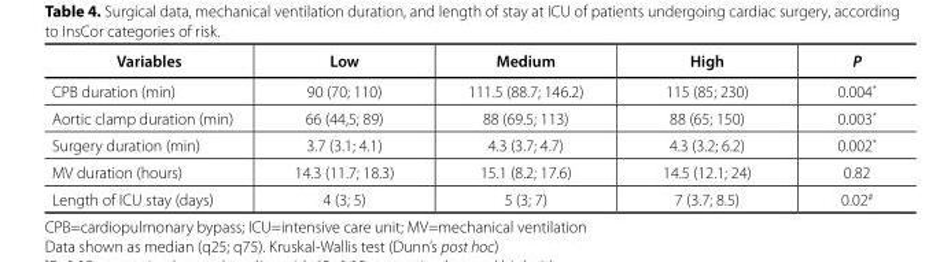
<table><thead><tr><td>Variables</td><td>Low</td><td>Medium</td><td>High</td><td>P</td></tr></thead><tbody><tr><td>CPB duration (min)</td><td>90 (70; 110)</td><td>111.5 (88.7; 146.2)</td><td>115 (85; 230)</td><td>0.004*</td></tr><tr><td>Aortic clamp duration (min)</td><td>66 (44,5; 89)</td><td>88 (69.5; 113)</td><td>88 (65; 150)</td><td>0.003*</td></tr><tr><td>Surgery duration (min)</td><td>3.7 (3.1; 4.1)</td><td>4.3 (3.7; 4.7)</td><td>4.3 (3.2; 6.2)</td><td>0.002*</td></tr><tr><td>MV duration (hours)</td><td>14.3 (11.7; 18.3)</td><td>15.1 (8.2; 17.6)</td><td>14.5 (12.1; 24)</td><td>0.82</td></tr><tr><td>Length of ICU stay (days)</td><td>4 (3; 5)</td><td>5 (3; 7)</td><td>7 (3.7; 8.5)</td><td>0.02<sup>#</sup></td></tr></tbody></table>